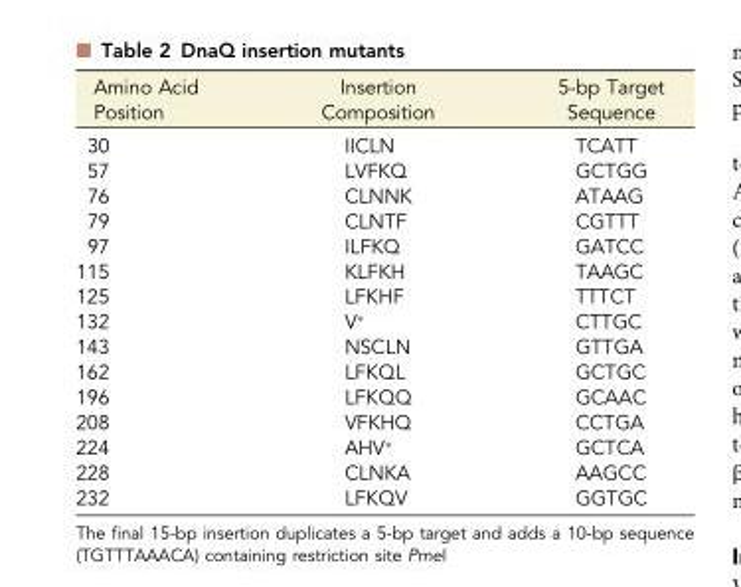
<table><thead><tr><td>Amino Acid Position</td><td>Insertion Composition</td><td>5-bp Target Sequence</td></tr></thead><tbody><tr><td>30</td><td>IICLN</td><td>TCATT</td></tr><tr><td>57</td><td>LVFKQ</td><td>GCTGG</td></tr><tr><td>76</td><td>CLNNK</td><td>ATAAG</td></tr><tr><td>79</td><td>CLNTF</td><td>CGTTT</td></tr><tr><td>97</td><td>ILFKQ</td><td>GATCC</td></tr><tr><td>115</td><td>KLFKH</td><td>TAAGC</td></tr><tr><td>125</td><td>LFKHF</td><td>TTTCT</td></tr><tr><td>132</td><td>V*</td><td>CTTGC</td></tr><tr><td>143</td><td>NSCLN</td><td>GTTGA</td></tr><tr><td>162</td><td>LFKQL</td><td>GCTGC</td></tr><tr><td>196</td><td>LFKQQ</td><td>GCAAC</td></tr><tr><td>208</td><td>VFKHQ</td><td>CCTGA</td></tr><tr><td>224</td><td>AHV*</td><td>GCTCA</td></tr><tr><td>228</td><td>CLNKA</td><td>AAGCC</td></tr><tr><td>232</td><td>LFKQV</td><td>GGTGC</td></tr></tbody></table>